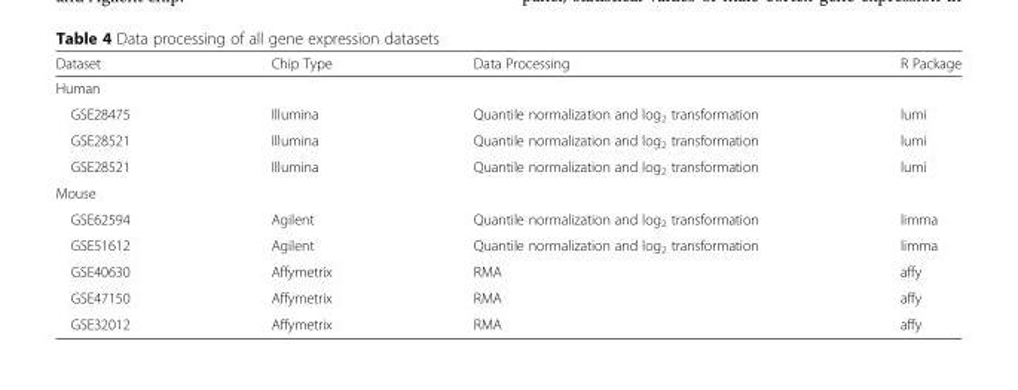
<table><thead><tr><td>Dataset</td><td>Chip Type</td><td>Data Processing</td><td>R Package</td></tr></thead><tbody><tr><td colspan="4">Human</td></tr><tr><td>GSE28475</td><td>Illumina</td><td>Quantile normalization and log<sub>2</sub> transformation</td><td>lumi</td></tr><tr><td>GSE28521</td><td>Illumina</td><td>Quantile normalization and log<sub>2</sub> transformation</td><td>lumi</td></tr><tr><td>GSE28521</td><td>Illumina</td><td>Quantile normalization and log<sub>2</sub> transformation</td><td>lumi</td></tr><tr><td colspan="4">Mouse</td></tr><tr><td>GSE62594</td><td>Agilent</td><td>Quantile normalization and log<sub>2</sub> transformation</td><td>limma</td></tr><tr><td>GSE51612</td><td>Agilent</td><td>Quantile normalization and log<sub>2</sub> transformation</td><td>limma</td></tr><tr><td>GSE40630</td><td>Affymetrix</td><td>RMA</td><td>affy</td></tr><tr><td>GSE47150</td><td>Affymetrix</td><td>RMA</td><td>affy</td></tr><tr><td>GSE32012</td><td>Affymetrix</td><td>RMA</td><td>affy</td></tr></tbody></table>